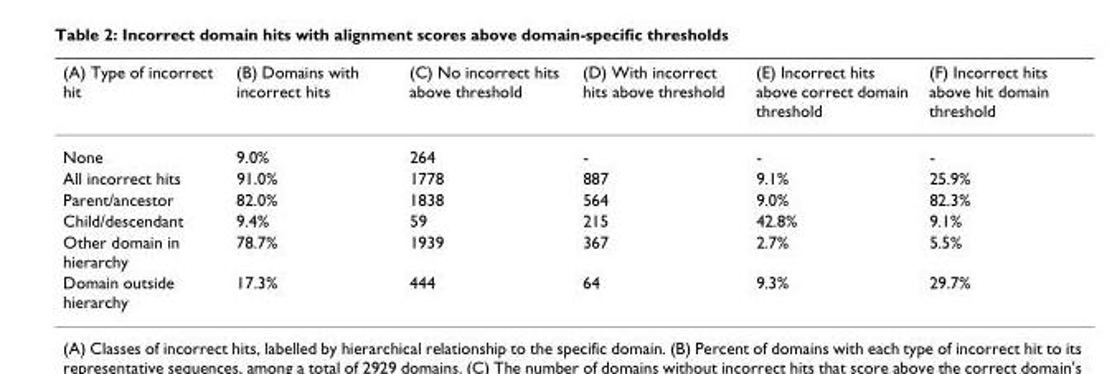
<table><thead><tr><td>(A) Type of incorrect hit</td><td>(B) Domains with incorrect hits</td><td>(C) No incorrect hits above threshold</td><td>(D) With incorrect hits above threshold</td><td>(E) Incorrect hits above correct domain threshold</td><td>(F) Incorrect hits above hit domain threshold</td></tr></thead><tbody><tr><td>None</td><td>9.0%</td><td>264</td><td>-</td><td>-</td><td>-</td></tr><tr><td>All incorrect hits</td><td>91.0%</td><td>1778</td><td>887</td><td>9.1%</td><td>25.9%</td></tr><tr><td>Parent/ancestor</td><td>82.0%</td><td>1838</td><td>564</td><td>9.0%</td><td>82.3%</td></tr><tr><td>Child/descendant</td><td>9.4%</td><td>59</td><td>215</td><td>42.8%</td><td>9.1%</td></tr><tr><td>Other domain in hierarchy</td><td>78.7%</td><td>1939</td><td>367</td><td>2.7%</td><td>5.5%</td></tr><tr><td>Domain outside hierarchy</td><td>17.3%</td><td>444</td><td>64</td><td>9.3%</td><td>29.7%</td></tr></tbody></table>